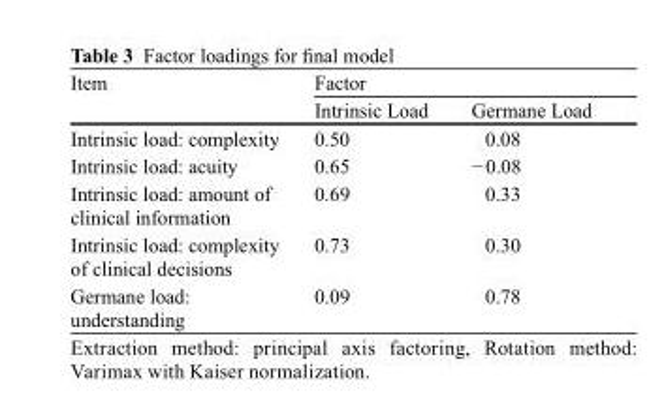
<table><thead><tr><td rowspan="2">Item</td><td colspan="2">Factor</td></tr><tr><td>Intrinsic Load</td><td>Germane Load</td></tr></thead><tbody><tr><td>Intrinsic load: complexity</td><td>0.50</td><td>0.08</td></tr><tr><td>Intrinsic load: acuity</td><td>0.65</td><td>− 0.08</td></tr><tr><td>Intrinsic load: amount of clinical information</td><td>0.69</td><td>0.33</td></tr><tr><td>Intrinsic load: complexity of clinical decisions</td><td>0.73</td><td>0.30</td></tr><tr><td>Germane load: understanding</td><td>0.09</td><td>0.78</td></tr></tbody></table>